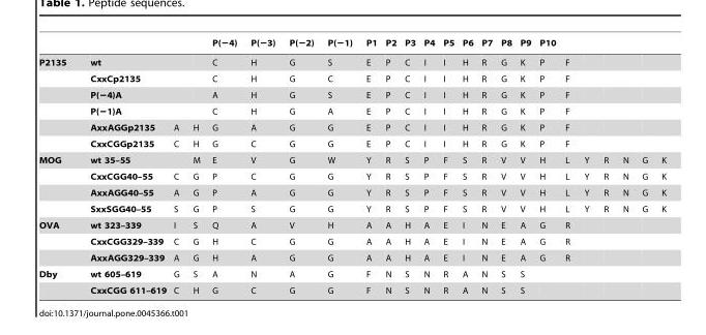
<table><thead><tr><td></td><td></td><td></td><td></td><td>P(−4)</td><td>P(−3)</td><td>P(−2)</td><td>P(−1)</td><td>P1</td><td>P2</td><td>P3</td><td>P4</td><td>P5</td><td>P6</td><td>P7</td><td>P8</td><td>P9</td><td>P10</td><td></td><td></td><td></td><td></td><td></td><td></td></tr></thead><tbody><tr><td rowspan="6">P2135</td><td>wt</td><td></td><td></td><td>C</td><td>H</td><td>G</td><td>S</td><td>E</td><td>P</td><td>C</td><td>I</td><td>I</td><td>H</td><td>R</td><td>G</td><td>K</td><td>P</td><td>F</td><td></td><td></td><td></td><td></td><td></td></tr><tr><td>CxxCp2135</td><td></td><td></td><td>C</td><td>H</td><td>G</td><td>C</td><td>E</td><td>P</td><td>C</td><td>I</td><td>I</td><td>H</td><td>R</td><td>G</td><td>K</td><td>P</td><td>F</td><td></td><td></td><td></td><td></td><td></td></tr><tr><td>P(−4)A</td><td></td><td></td><td>A</td><td>H</td><td>G</td><td>S</td><td>E</td><td>P</td><td>C</td><td>I</td><td>I</td><td>H</td><td>R</td><td>G</td><td>K</td><td>P</td><td>F</td><td></td><td></td><td></td><td></td><td></td></tr><tr><td>P(−1)A</td><td></td><td></td><td>C</td><td>H</td><td>G</td><td>A</td><td>E</td><td>P</td><td>C</td><td>I</td><td>I</td><td>H</td><td>R</td><td>G</td><td>K</td><td>P</td><td>F</td><td></td><td></td><td></td><td></td><td></td></tr><tr><td>AxxAGGp2135</td><td>A</td><td>H</td><td>G</td><td>A</td><td>G</td><td>G</td><td>E</td><td>P</td><td>C</td><td>I</td><td>I</td><td>H</td><td>R</td><td>G</td><td>K</td><td>P</td><td>F</td><td></td><td></td><td></td><td></td><td></td></tr><tr><td>CxxCGGp2135</td><td>C</td><td>H</td><td>G</td><td>C</td><td>G</td><td>G</td><td>E</td><td>P</td><td>C</td><td>I</td><td>I</td><td>H</td><td>R</td><td>G</td><td>K</td><td>P</td><td>F</td><td></td><td></td><td></td><td></td><td></td></tr><tr><td rowspan="4">MOG</td><td>wt 35–55</td><td></td><td>M</td><td>E</td><td>V</td><td>G</td><td>W</td><td>Y</td><td>R</td><td>S</td><td>P</td><td>F</td><td>S</td><td>R</td><td>V</td><td>V</td><td>H</td><td>L</td><td>Y</td><td>R</td><td>N</td><td>G</td><td>K</td></tr><tr><td>CxxCGG40–55</td><td>C</td><td>G</td><td>P</td><td>C</td><td>G</td><td>G</td><td>Y</td><td>R</td><td>S</td><td>P</td><td>F</td><td>S</td><td>R</td><td>V</td><td>V</td><td>H</td><td>L</td><td>Y</td><td>R</td><td>N</td><td>G</td><td>K</td></tr><tr><td>AxxAGG40–55</td><td>A</td><td>G</td><td>P</td><td>A</td><td>G</td><td>G</td><td>Y</td><td>R</td><td>S</td><td>P</td><td>F</td><td>S</td><td>R</td><td>V</td><td>V</td><td>H</td><td>L</td><td>Y</td><td>R</td><td>N</td><td>G</td><td>K</td></tr><tr><td>SxxSGG40–55</td><td>S</td><td>G</td><td>P</td><td>S</td><td>G</td><td>G</td><td>Y</td><td>R</td><td>S</td><td>P</td><td>F</td><td>S</td><td>R</td><td>V</td><td>V</td><td>H</td><td>L</td><td>Y</td><td>R</td><td>N</td><td>G</td><td>K</td></tr><tr><td rowspan="3">OVA</td><td>wt 323–339</td><td>I</td><td>S</td><td>Q</td><td>A</td><td>V</td><td>H</td><td>A</td><td>A</td><td>H</td><td>A</td><td>E</td><td>I</td><td>N</td><td>E</td><td>A</td><td>G</td><td>R</td><td></td><td></td><td></td><td></td><td></td></tr><tr><td>CxxCGG329–339</td><td>C</td><td>G</td><td>H</td><td>C</td><td>G</td><td>G</td><td>A</td><td>A</td><td>H</td><td>A</td><td>E</td><td>I</td><td>N</td><td>E</td><td>A</td><td>G</td><td>R</td><td></td><td></td><td></td><td></td><td></td></tr><tr><td>AxxAGG329–339</td><td>A</td><td>G</td><td>H</td><td>A</td><td>G</td><td>G</td><td>A</td><td>A</td><td>H</td><td>A</td><td>E</td><td>I</td><td>N</td><td>E</td><td>A</td><td>G</td><td>R</td><td></td><td></td><td></td><td></td><td></td></tr><tr><td rowspan="2">Dby</td><td>wt 605–619</td><td>G</td><td>S</td><td>A</td><td>N</td><td>A</td><td>G</td><td>F</td><td>N</td><td>S</td><td>N</td><td>R</td><td>A</td><td>N</td><td>S</td><td>S</td><td></td><td></td><td></td><td></td><td></td><td></td><td></td></tr><tr><td>CxxCGG 611–619</td><td>C</td><td>H</td><td>G</td><td>C</td><td>G</td><td>G</td><td>F</td><td>N</td><td>S</td><td>N</td><td>R</td><td>A</td><td>N</td><td>S</td><td>S</td><td></td><td></td><td></td><td></td><td></td><td></td><td></td></tr></tbody></table>